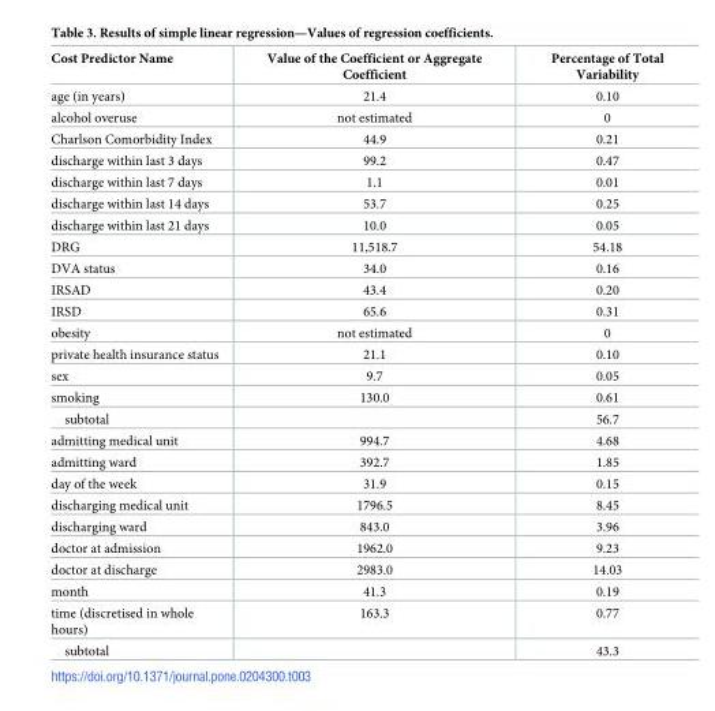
<table><thead><tr><td>Cost Predictor Name</td><td>Value of the Coefficient or Aggregate Coefficient</td><td>Percentage of Total Variability</td></tr></thead><tbody><tr><td>age (in years)</td><td>21.4</td><td>0.10</td></tr><tr><td>alcohol overuse</td><td>not estimated</td><td>0</td></tr><tr><td>Charlson Comorbidity Index</td><td>44.9</td><td>0.21</td></tr><tr><td>discharge within last 3 days</td><td>99.2</td><td>0.47</td></tr><tr><td>discharge within last 7 days</td><td>1.1</td><td>0.01</td></tr><tr><td>discharge within last 14 days</td><td>53.7</td><td>0.25</td></tr><tr><td>discharge within last 21 days</td><td>10.0</td><td>0.05</td></tr><tr><td>DRG</td><td>11,518.7</td><td>54.18</td></tr><tr><td>DVA status</td><td>34.0</td><td>0.16</td></tr><tr><td>IRSAD</td><td>43.4</td><td>0.20</td></tr><tr><td>IRSD</td><td>65.6</td><td>0.31</td></tr><tr><td>obesity</td><td>not estimated</td><td>0</td></tr><tr><td>private health insurance status</td><td>21.1</td><td>0.10</td></tr><tr><td>sex</td><td>9.7</td><td>0.05</td></tr><tr><td>smoking</td><td>130.0</td><td>0.61</td></tr><tr><td>subtotal</td><td></td><td>56.7</td></tr><tr><td>admitting medical unit</td><td>994.7</td><td>4.68</td></tr><tr><td>admitting ward</td><td>392.7</td><td>1.85</td></tr><tr><td>day of the week</td><td>31.9</td><td>0.15</td></tr><tr><td>discharging medical unit</td><td>1796.5</td><td>8.45</td></tr><tr><td>discharging ward</td><td>843.0</td><td>3.96</td></tr><tr><td>doctor at admission</td><td>1962.0</td><td>9.23</td></tr><tr><td>doctor at discharge</td><td>2983.0</td><td>14.03</td></tr><tr><td>month</td><td>41.3</td><td>0.19</td></tr><tr><td>time (discretised in whole hours)</td><td>163.3</td><td>0.77</td></tr><tr><td>subtotal</td><td></td><td>43.3</td></tr></tbody></table>